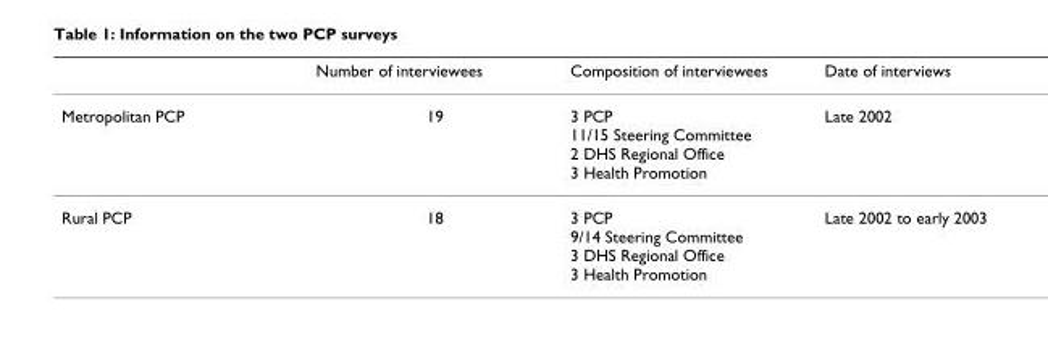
<table><thead><tr><td></td><td>Number of interviewees</td><td>Composition of interviewees</td><td>Date of interviews</td></tr></thead><tbody><tr><td>Metropolitan PCP</td><td>19</td><td>3 PCP 11/15 Steering Committee 2 DHS Regional Office 3 Health Promotion</td><td>Late 2002</td></tr><tr><td>Rural PCP</td><td>18</td><td>3 PCP 9/14 Steering Committee 3 DHS Regional Office 3 Health Promotion</td><td>Late 2002 to early 2003</td></tr></tbody></table>